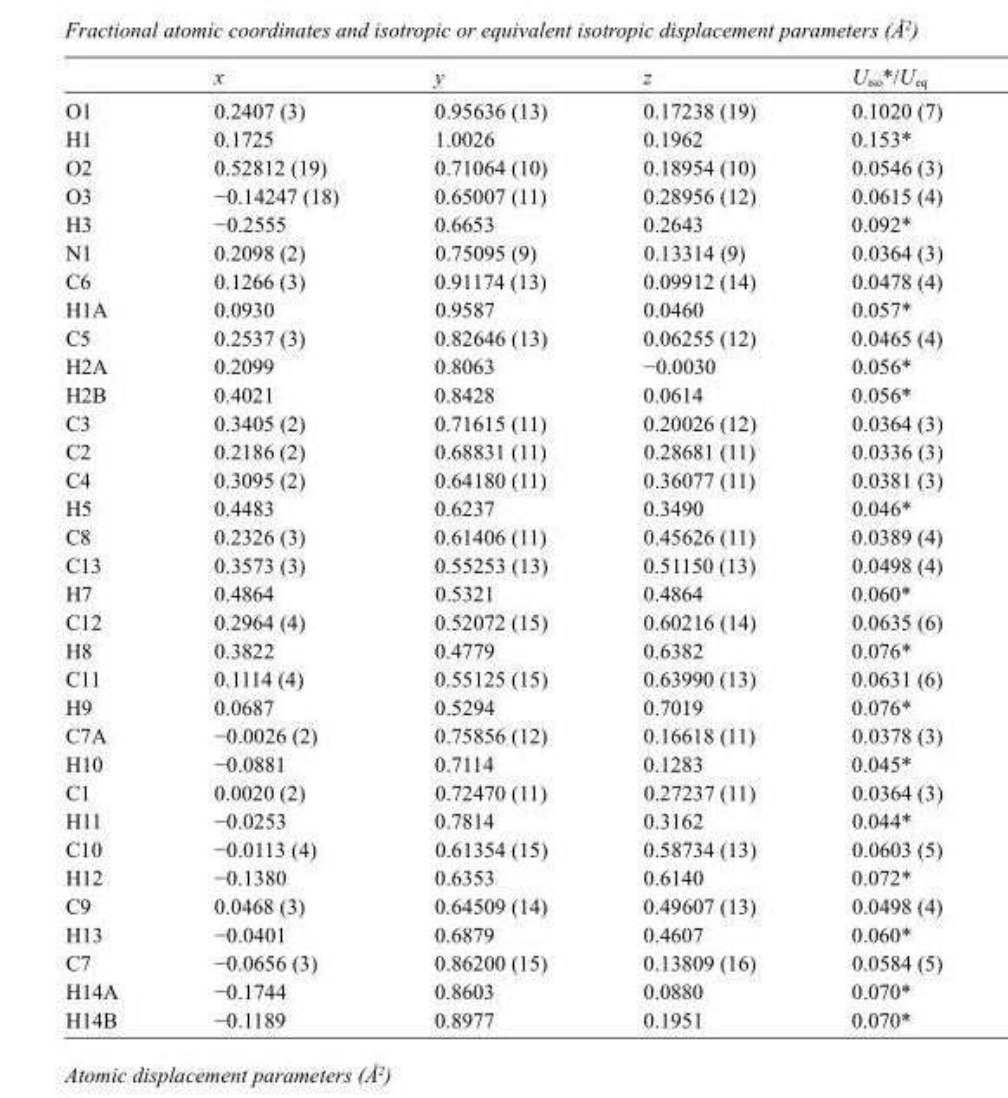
<table><thead><tr><td></td><td>x</td><td>y</td><td>z</td><td>U<sub>iso</sub>*/U<sub>eq</sub></td></tr></thead><tbody><tr><td>O1</td><td>0.2407 (3)</td><td>0.95636 (13)</td><td>0.17238 (19)</td><td>0.1020 (7)</td></tr><tr><td>H1</td><td>0.1725</td><td>1.0026</td><td>0.1962</td><td>0.153*</td></tr><tr><td>O2</td><td>0.52812 (19)</td><td>0.71064 (10)</td><td>0.18954 (10)</td><td>0.0546 (3)</td></tr><tr><td>O3</td><td>−0.14247 (18)</td><td>0.65007 (11)</td><td>0.28956 (12)</td><td>0.0615 (4)</td></tr><tr><td>H3</td><td>−0.2555</td><td>0.6653</td><td>0.2643</td><td>0.092*</td></tr><tr><td>N1</td><td>0.2098 (2)</td><td>0.75095 (9)</td><td>0.13314 (9)</td><td>0.0364 (3)</td></tr><tr><td>C6</td><td>0.1266 (3)</td><td>0.91174 (13)</td><td>0.09912 (14)</td><td>0.0478 (4)</td></tr><tr><td>H1A</td><td>0.0930</td><td>0.9587</td><td>0.0460</td><td>0.057*</td></tr><tr><td>C5</td><td>0.2537 (3)</td><td>0.82646 (13)</td><td>0.06255 (12)</td><td>0.0465 (4)</td></tr><tr><td>H2A</td><td>0.2099</td><td>0.8063</td><td>−0.0030</td><td>0.056*</td></tr><tr><td>H2B</td><td>0.4021</td><td>0.8428</td><td>0.0614</td><td>0.056*</td></tr><tr><td>C3</td><td>0.3405 (2)</td><td>0.71615 (11)</td><td>0.20026 (12)</td><td>0.0364 (3)</td></tr><tr><td>C2</td><td>0.2186 (2)</td><td>0.68831 (11)</td><td>0.28681 (11)</td><td>0.0336 (3)</td></tr><tr><td>C4</td><td>0.3095 (2)</td><td>0.64180 (11)</td><td>0.36077 (11)</td><td>0.0381 (3)</td></tr><tr><td>H5</td><td>0.4483</td><td>0.6237</td><td>0.3490</td><td>0.046*</td></tr><tr><td>C8</td><td>0.2326 (3)</td><td>0.61406 (11)</td><td>0.45626 (11)</td><td>0.0389 (4)</td></tr><tr><td>C13</td><td>0.3573 (3)</td><td>0.55253 (13)</td><td>0.51150 (13)</td><td>0.0498 (4)</td></tr><tr><td>H7</td><td>0.4864</td><td>0.5321</td><td>0.4864</td><td>0.060*</td></tr><tr><td>C12</td><td>0.2964 (4)</td><td>0.52072 (15)</td><td>0.60216 (14)</td><td>0.0635 (6)</td></tr><tr><td>H8</td><td>0.3822</td><td>0.4779</td><td>0.6382</td><td>0.076*</td></tr><tr><td>C11</td><td>0.1114 (4)</td><td>0.55125 (15)</td><td>0.63990 (13)</td><td>0.0631 (6)</td></tr><tr><td>H9</td><td>0.0687</td><td>0.5294</td><td>0.7019</td><td>0.076*</td></tr><tr><td>C7A</td><td>−0.0026 (2)</td><td>0.75856 (12)</td><td>0.16618 (11)</td><td>0.0378 (3)</td></tr><tr><td>H10</td><td>−0.0881</td><td>0.7114</td><td>0.1283</td><td>0.045*</td></tr><tr><td>C1</td><td>0.0020 (2)</td><td>0.72470 (11)</td><td>0.27237 (11)</td><td>0.0364 (3)</td></tr><tr><td>H11</td><td>−0.0253</td><td>0.7814</td><td>0.3162</td><td>0.044*</td></tr><tr><td>C10</td><td>−0.0113 (4)</td><td>0.61354 (15)</td><td>0.58734 (13)</td><td>0.0603 (5)</td></tr><tr><td>H12</td><td>−0.1380</td><td>0.6353</td><td>0.6140</td><td>0.072*</td></tr><tr><td>C9</td><td>0.0468 (3)</td><td>0.64509 (14)</td><td>0.49607 (13)</td><td>0.0498 (4)</td></tr><tr><td>H13</td><td>−0.0401</td><td>0.6879</td><td>0.4607</td><td>0.060*</td></tr><tr><td>C7</td><td>−0.0656 (3)</td><td>0.86200 (15)</td><td>0.13809 (16)</td><td>0.0584 (5)</td></tr><tr><td>H14A</td><td>−0.1744</td><td>0.8603</td><td>0.0880</td><td>0.070*</td></tr><tr><td>H14B</td><td>−0.1189</td><td>0.8977</td><td>0.1951</td><td>0.070*</td></tr></tbody></table>